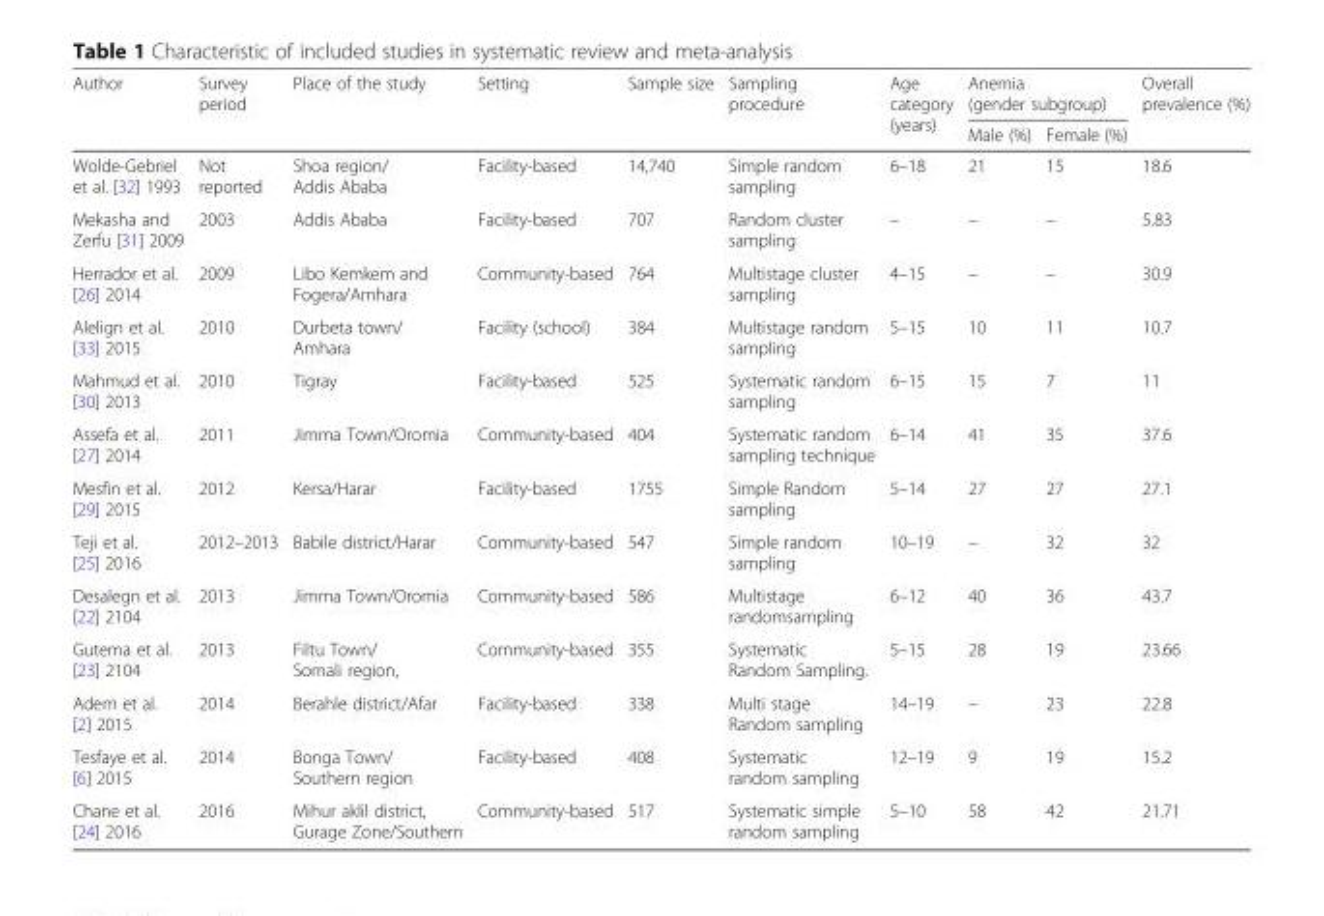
<table><thead><tr><td rowspan="2">Author</td><td rowspan="2">Survey period</td><td rowspan="2">Place of the study</td><td rowspan="2">Setting</td><td rowspan="2">Sample size</td><td rowspan="2">Sampling procedure</td><td rowspan="2">Age category (years)</td><td colspan="2">Anemia (gender subgroup)</td><td rowspan="2">Overall prevalence (%)</td></tr><tr><td>Male (%)</td><td>Female (%)</td></tr></thead><tbody><tr><td>Wolde-Gebriel et al. [32] 1993</td><td>Not reported</td><td>Shoa region/ Addis Ababa</td><td>Facility-based</td><td>14,740</td><td>Simple random sampling</td><td>6–18</td><td>21</td><td>15</td><td>18.6</td></tr><tr><td>Mekasha and Zerfu [31] 2009</td><td>2003</td><td>Addis Ababa</td><td>Facility-based</td><td>707</td><td>Random cluster sampling</td><td>–</td><td>–</td><td>–</td><td>5.83</td></tr><tr><td>Herrador et al. [26] 2014</td><td>2009</td><td>Libo Kemkem and Fogera/Amhara</td><td>Community-based</td><td>764</td><td>Multistage cluster sampling</td><td>4–15</td><td>–</td><td>–</td><td>30.9</td></tr><tr><td>Alelign et al. [33] 2015</td><td>2010</td><td>Durbeta town/ Amhara</td><td>Facility (school)</td><td>384</td><td>Multistage random sampling</td><td>5–15</td><td>10</td><td>11</td><td>10.7</td></tr><tr><td>Mahmud et al. [30] 2013</td><td>2010</td><td>Tigray</td><td>Facility-based</td><td>525</td><td>Systematic random sampling</td><td>6–15</td><td>15</td><td>7</td><td>11</td></tr><tr><td>Assefa et al. [27] 2014</td><td>2011</td><td>Jimma Town/Oromia</td><td>Community-based</td><td>404</td><td>Systematic random sampling technique</td><td>6–14</td><td>41</td><td>35</td><td>37.6</td></tr><tr><td>Mesfin et al. [29] 2015</td><td>2012</td><td>Kersa/Harar</td><td>Facility-based</td><td>1755</td><td>Simple Random sampling</td><td>5–14</td><td>27</td><td>27</td><td>27.1</td></tr><tr><td>Teji et al. [25] 2016</td><td>2012–2013</td><td>Babile district/Harar</td><td>Community-based</td><td>547</td><td>Simple random sampling</td><td>10–19</td><td>–</td><td>32</td><td>32</td></tr><tr><td>Desalegn et al. [22] 2104</td><td>2013</td><td>Jimma Town/Oromia</td><td>Community-based</td><td>586</td><td>Multistage randomsampling</td><td>6–12</td><td>40</td><td>36</td><td>43.7</td></tr><tr><td>Gutema et al. [23] 2104</td><td>2013</td><td>Filtu Town/ Somali region,</td><td>Community-based</td><td>355</td><td>Systematic Random Sampling.</td><td>5–15</td><td>28</td><td>19</td><td>23.66</td></tr><tr><td>Adem et al. [2] 2015</td><td>2014</td><td>Berahle district/Afar</td><td>Facility-based</td><td>338</td><td>Multi stage Random sampling</td><td>14–19</td><td>–</td><td>23</td><td>22.8</td></tr><tr><td>Tesfaye et al. [6] 2015</td><td>2014</td><td>Bonga Town/ Southern region</td><td>Facility-based</td><td>408</td><td>Systematic random sampling</td><td>12–19</td><td>9</td><td>19</td><td>15.2</td></tr><tr><td>Chane et al. [24] 2016</td><td>2016</td><td>Mihur aklil district, Gurage Zone/Southern</td><td>Community-based</td><td>517</td><td>Systematic simple random sampling</td><td>5–10</td><td>58</td><td>42</td><td>21.71</td></tr></tbody></table>